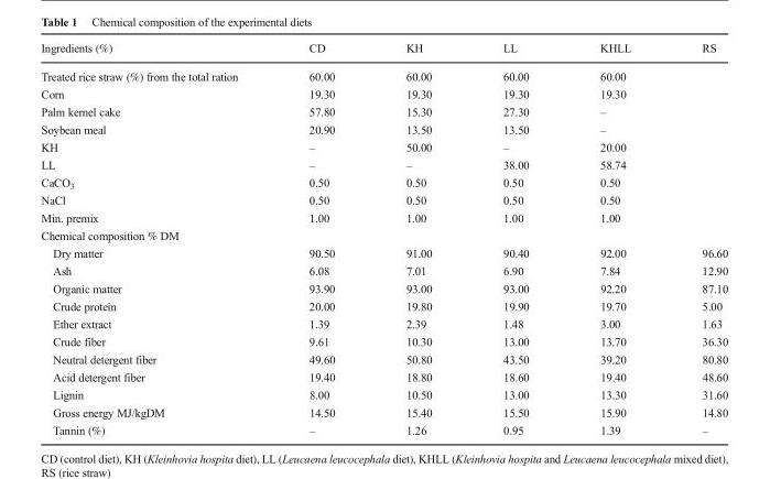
<table><thead><tr><td>Ingredients (%)</td><td>CD</td><td>KH</td><td>LL</td><td>KHLL</td><td>RS</td></tr></thead><tbody><tr><td>Treated rice straw (%) from the total ration</td><td>60.00</td><td>60.00</td><td>60.00</td><td>60.00</td><td></td></tr><tr><td>Corn</td><td>19.30</td><td>19.30</td><td>19.30</td><td>19.30</td><td></td></tr><tr><td>Palm kernel cake</td><td>57.80</td><td>15.30</td><td>27.30</td><td>–</td><td></td></tr><tr><td>Soybean meal</td><td>20.90</td><td>13.50</td><td>13.50</td><td>–</td><td></td></tr><tr><td>KH</td><td>–</td><td>50.00</td><td>–</td><td>20.00</td><td></td></tr><tr><td>LL</td><td>–</td><td>–</td><td>38.00</td><td>58.74</td><td></td></tr><tr><td>CaCO<sub>3</sub></td><td>0.50</td><td>0.50</td><td>0.50</td><td>0.50</td><td></td></tr><tr><td>NaCl</td><td>0.50</td><td>0.50</td><td>0.50</td><td>0.50</td><td></td></tr><tr><td>Min. premix</td><td>1.00</td><td>1.00</td><td>1.00</td><td>1.00</td><td></td></tr><tr><td colspan="6">Chemical composition % DM</td></tr><tr><td>Dry matter</td><td>90.50</td><td>91.00</td><td>90.40</td><td>92.00</td><td>96.60</td></tr><tr><td>Ash</td><td>6.08</td><td>7.01</td><td>6.90</td><td>7.84</td><td>12.90</td></tr><tr><td>Organic matter</td><td>93.90</td><td>93.00</td><td>93.00</td><td>92.20</td><td>87.10</td></tr><tr><td>Crude protein</td><td>20.00</td><td>19.80</td><td>19.90</td><td>19.70</td><td>5.00</td></tr><tr><td>Ether extract</td><td>1.39</td><td>2.39</td><td>1.48</td><td>3.00</td><td>1.63</td></tr><tr><td>Crude fiber</td><td>9.61</td><td>10.30</td><td>13.00</td><td>13.70</td><td>36.30</td></tr><tr><td>Neutral detergent fiber</td><td>49.60</td><td>50.80</td><td>43.50</td><td>39.20</td><td>80.80</td></tr><tr><td>Acid detergent fiber</td><td>19.40</td><td>18.80</td><td>18.60</td><td>19.40</td><td>48.60</td></tr><tr><td>Lignin</td><td>8.00</td><td>10.50</td><td>13.00</td><td>13.30</td><td>31.60</td></tr><tr><td>Gross energy MJ/kgDM</td><td>14.50</td><td>15.40</td><td>15.50</td><td>15.90</td><td>14.80</td></tr><tr><td>Tannin (%)</td><td>–</td><td>1.26</td><td>0.95</td><td>1.39</td><td>–</td></tr></tbody></table>